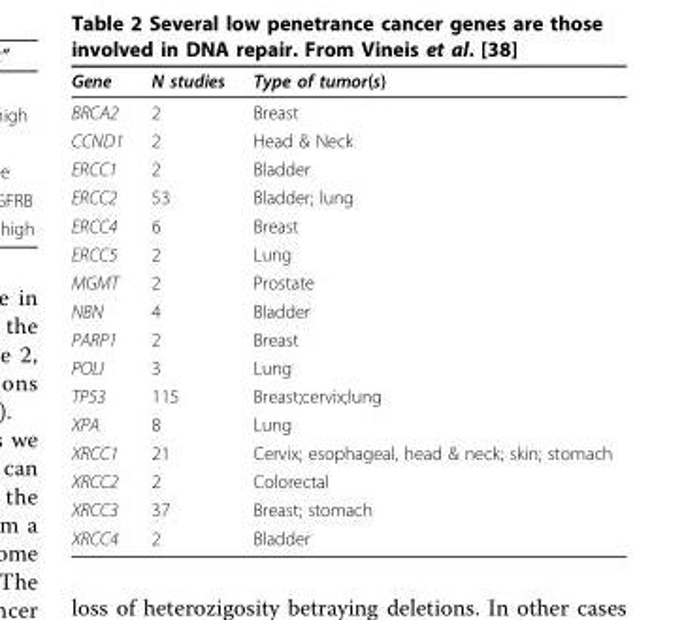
<table><thead><tr><td>Gene</td><td>N studies</td><td>Type of tumor(s)</td></tr></thead><tbody><tr><td>BRCA2</td><td>2</td><td>Breast</td></tr><tr><td>CCND1</td><td>2</td><td>Head &amp; Neck</td></tr><tr><td>ERCC1</td><td>2</td><td>Bladder</td></tr><tr><td>ERCC2</td><td>53</td><td>Bladder; lung</td></tr><tr><td>ERCC4</td><td>6</td><td>Breast</td></tr><tr><td>ERCC5</td><td>2</td><td>Lung</td></tr><tr><td>MGMT</td><td>2</td><td>Prostate</td></tr><tr><td>NBN</td><td>4</td><td>Bladder</td></tr><tr><td>PARP1</td><td>2</td><td>Breast</td></tr><tr><td>POLI</td><td>3</td><td>Lung</td></tr><tr><td>TP53</td><td>115</td><td>Breast;cervix;lung</td></tr><tr><td>XPA</td><td>8</td><td>Lung</td></tr><tr><td>XRCC1</td><td>21</td><td>Cervix; esophageal, head &amp; neck; skin; stomach</td></tr><tr><td>XRCC2</td><td>2</td><td>Colorectal</td></tr><tr><td>XRCC3</td><td>37</td><td>Breast; stomach</td></tr><tr><td>XRCC4</td><td>2</td><td>Bladder</td></tr></tbody></table>